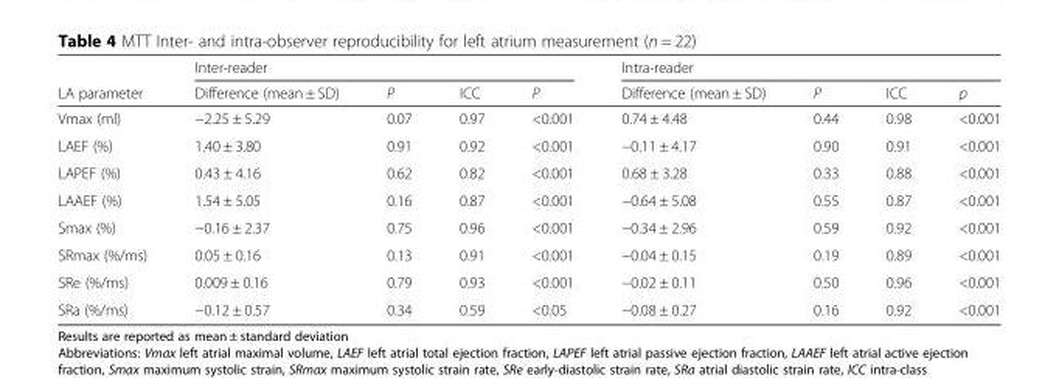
<table><thead><tr><td rowspan="2">LA parameter</td><td colspan="4">Inter-reader</td><td colspan="4">Intra-reader</td></tr><tr><td>Difference (mean ± SD)</td><td>P</td><td>ICC</td><td>P</td><td>Difference (mean ± SD)</td><td>P</td><td>ICC</td><td>p</td></tr></thead><tbody><tr><td>Vmax (ml)</td><td>−2.25 ± 5.29</td><td>0.07</td><td>0.97</td><td>&lt;0.001</td><td>0.74 ± 4.48</td><td>0.44</td><td>0.98</td><td>&lt;0.001</td></tr><tr><td>LAEF (%)</td><td>1.40 ± 3.80</td><td>0.91</td><td>0.92</td><td>&lt;0.001</td><td>−0.11 ± 4.17</td><td>0.90</td><td>0.91</td><td>&lt;0.001</td></tr><tr><td>LAPEF (%)</td><td>0.43 ± 4.16</td><td>0.62</td><td>0.82</td><td>&lt;0.001</td><td>0.68 ± 3.28</td><td>0.33</td><td>0.88</td><td>&lt;0.001</td></tr><tr><td>LAAEF (%)</td><td>1.54 ± 5.05</td><td>0.16</td><td>0.87</td><td>&lt;0.001</td><td>−0.64 ± 5.08</td><td>0.55</td><td>0.87</td><td>&lt;0.001</td></tr><tr><td>Smax (%)</td><td>−0.16 ± 2.37</td><td>0.75</td><td>0.96</td><td>&lt;0.001</td><td>−0.34 ± 2.96</td><td>0.59</td><td>0.92</td><td>&lt;0.001</td></tr><tr><td>SRmax (%/ms)</td><td>0.05 ± 0.16</td><td>0.13</td><td>0.91</td><td>&lt;0.001</td><td>−0.04 ± 0.15</td><td>0.19</td><td>0.89</td><td>&lt;0.001</td></tr><tr><td>SRe (%/ms)</td><td>0.009 ± 0.16</td><td>0.79</td><td>0.93</td><td>&lt;0.001</td><td>−0.02 ± 0.11</td><td>0.50</td><td>0.96</td><td>&lt;0.001</td></tr><tr><td>SRa (%/ms)</td><td>−0.12 ± 0.57</td><td>0.34</td><td>0.59</td><td>&lt;0.05</td><td>−0.08 ± 0.27</td><td>0.16</td><td>0.92</td><td>&lt;0.001</td></tr></tbody></table>